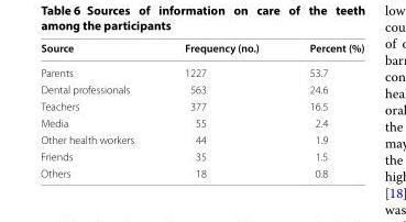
<table><thead><tr><td>Source</td><td>Frequency (no.)</td><td>Percent (%)</td></tr></thead><tbody><tr><td>Parents</td><td>1227</td><td>53.7</td></tr><tr><td>Dental professionals</td><td>563</td><td>24.6</td></tr><tr><td>Teachers</td><td>377</td><td>16.5</td></tr><tr><td>Media</td><td>55</td><td>2.4</td></tr><tr><td>Other health workers</td><td>44</td><td>1.9</td></tr><tr><td>Friends</td><td>35</td><td>1.5</td></tr><tr><td>Others</td><td>18</td><td>0.8</td></tr></tbody></table>